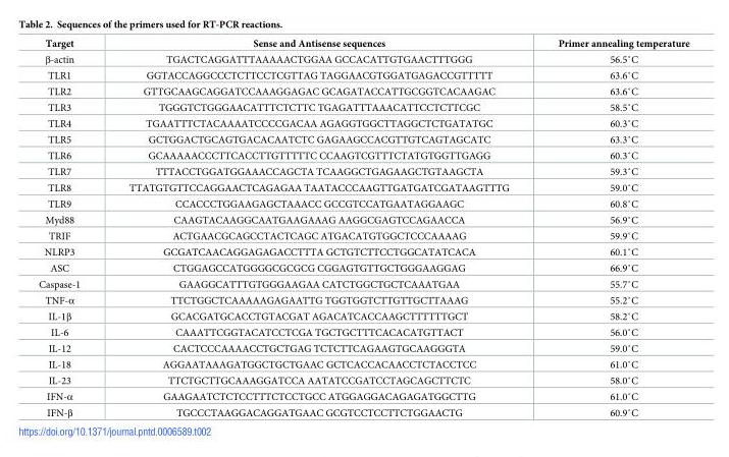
<table><thead><tr><td>Target</td><td>Sense and Antisense sequences</td><td>Primer annealing temperature</td></tr></thead><tbody><tr><td>β-actin</td><td>TGACTCAGGATTTAAAAACTGGAA GCCACATTGTGAACTTTGGG</td><td>56.5˚C</td></tr><tr><td>TLR1</td><td>GGTACCAGGCCCTCTTCCTCGTTAG TAGGAACGTGGATGAGACCGTTTTT</td><td>63.6˚C</td></tr><tr><td>TLR2</td><td>GTTGCAAGCAGGATCCAAAGGAGAC GCAGATACCATTGCGGTCACAAGAC</td><td>63.6˚C</td></tr><tr><td>TLR3</td><td>TGGGTCTGGGAACATTTCTCTTC TGAGATTTAAACATTCCTCTTCGC</td><td>58.5˚C</td></tr><tr><td>TLR4</td><td>TGAATTTCTACAAAATCCCCGACAA AGAGGTGGCTTAGGCTCTGATATGC</td><td>60.3˚C</td></tr><tr><td>TLR5</td><td>GCTGGACTGCAGTGACACAATCTC GAGAAGCCACGTTGTCAGTAGCATC</td><td>63.3˚C</td></tr><tr><td>TLR6</td><td>GCAAAAACCCTTCACCTTGTTTTTC CCAAGTCGTTTCTATGTGGTTGAGG</td><td>60.3˚C</td></tr><tr><td>TLR7</td><td>TTTACCTGGATGGAAACCAGCTA TCAAGGCTGAGAAGCTGTAAGCTA</td><td>59.3˚C</td></tr><tr><td>TLR8</td><td>TTATGTGTTCCAGGAACTCAGAGAA TAATACCCAAGTTGATGATCGATAAGTTTG</td><td>59.0˚C</td></tr><tr><td>TLR9</td><td>CCACCCTGGAAGAGCTAAACC GCCGTCCATGAATAGGAAGC</td><td>60.8˚C</td></tr><tr><td>Myd88</td><td>CAAGTACAAGGCAATGAAGAAAG AAGGCGAGTCCAGAACCA</td><td>56.9˚C</td></tr><tr><td>TRIF</td><td>ACTGAACGCAGCCTACTCAGC ATGACATGTGGCTCCCAAAAG</td><td>59.9˚C</td></tr><tr><td>NLRP3</td><td>GCGATCAACAGGAGAGACCTTTA GCTGTCTTCCTGGCATATCACA</td><td>60.1˚C</td></tr><tr><td>ASC</td><td>CTGGAGCCATGGGGCGCGCG CGGAGTGTTGCTGGGAAGGAG</td><td>66.9˚C</td></tr><tr><td>Caspase-1</td><td>GAAGGCATTTGTGGGAAGAA CATCTGGCTGCTCAAATGAA</td><td>55.7˚C</td></tr><tr><td>TNF-α</td><td>TTCTGGCTCAAAAAGAGAATTG TGGTGGTCTTGTTGCTTAAAG</td><td>55.2˚C</td></tr><tr><td>IL-1β</td><td>GCACGATGCACCTGTACGAT AGACATCACCAAGCTTTTTTGCT</td><td>58.2˚C</td></tr><tr><td>IL-6</td><td>CAAATTCGGTACATCCTCGA TGCTGCTTTCACACATGTTACT</td><td>56.0˚C</td></tr><tr><td>IL-12</td><td>CACTCCCAAAACCTGCTGAG TCTCTTCAGAAGTGCAAGGGTA</td><td>59.0˚C</td></tr><tr><td>IL-18</td><td>AGGAATAAAGATGGCTGCTGAAC GCTCACCACAACCTCTACCTCC</td><td>61.0˚C</td></tr><tr><td>IL-23</td><td>TTCTGCTTGCAAAGGATCCA AATATCCGATCCTAGCAGCTTCTC</td><td>58.0˚C</td></tr><tr><td>IFN-α</td><td>GAAGAATCTCTCCTTTCTCCTGCC ATGGAGGACAGAGATGGCTTG</td><td>61.0˚C</td></tr><tr><td>IFN-β</td><td>TGCCCTAAGGACAGGATGAAC GCGTCCTCCTTCTGGAACTG</td><td>60.9˚C</td></tr></tbody></table>